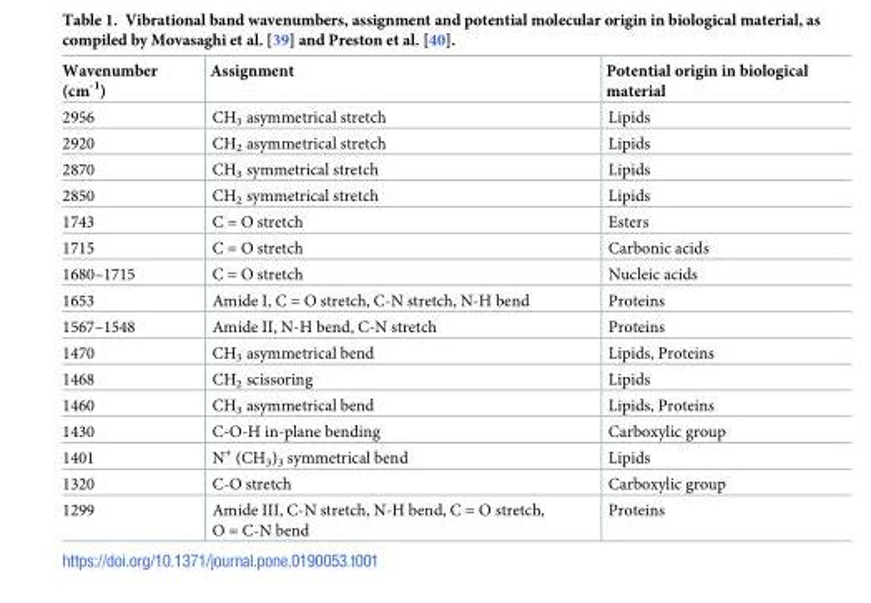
<table><thead><tr><td>Wavenumber (cm<sup>-1</sup>)</td><td>Assignment</td><td>Potential origin in biological material</td></tr></thead><tbody><tr><td>2956</td><td>CH<sub>3</sub> asymmetrical stretch</td><td>Lipids</td></tr><tr><td>2920</td><td>CH<sub>2</sub> asymmetrical stretch</td><td>Lipids</td></tr><tr><td>2870</td><td>CH<sub>3</sub> symmetrical stretch</td><td>Lipids</td></tr><tr><td>2850</td><td>CH<sub>2</sub> symmetrical stretch</td><td>Lipids</td></tr><tr><td>1743</td><td>C = O stretch</td><td>Esters</td></tr><tr><td>1715</td><td>C = O stretch</td><td>Carbonic acids</td></tr><tr><td>1680–1715</td><td>C = O stretch</td><td>Nucleic acids</td></tr><tr><td>1653</td><td>Amide I, C = O stretch, C-N stretch, N-H bend</td><td>Proteins</td></tr><tr><td>1567–1548</td><td>Amide II, N-H bend, C-N stretch</td><td>Proteins</td></tr><tr><td>1470</td><td>CH<sub>3</sub> asymmetrical bend</td><td>Lipids, Proteins</td></tr><tr><td>1468</td><td>CH<sub>2</sub> scissoring</td><td>Lipids</td></tr><tr><td>1460</td><td>CH<sub>3</sub> asymmetrical bend</td><td>Lipids, Proteins</td></tr><tr><td>1430</td><td>C-O-H in-plane bending</td><td>Carboxylic group</td></tr><tr><td>1401</td><td>N<sup>+</sup> (CH<sub>3</sub>)<sub>3</sub> symmetrical bend</td><td>Lipids</td></tr><tr><td>1320</td><td>C-O stretch</td><td>Carboxylic group</td></tr><tr><td>1299</td><td>Amide III, C-N stretch, N-H bend, C = O stretch, O = C-N bend</td><td>Proteins</td></tr></tbody></table>